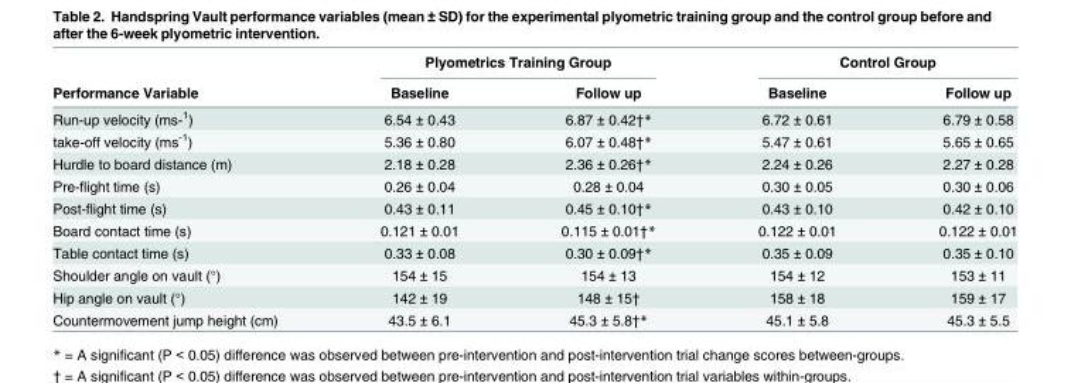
<table><thead><tr><td rowspan="2">Performance Variable</td><td colspan="2">Plyometrics Training Group</td><td colspan="2">Control Group</td></tr><tr><td>Baseline</td><td>Follow up</td><td>Baseline</td><td>Follow up</td></tr></thead><tbody><tr><td>Run-up velocity (ms-<sup>1</sup>)</td><td>6.54 ± 0.43</td><td>6.87 ± 0.42†*</td><td>6.72 ± 0.61</td><td>6.79 ± 0.58</td></tr><tr><td>take-off velocity (ms<sup>-1</sup>)</td><td>5.36 ± 0.80</td><td>6.07 ± 0.48†*</td><td>5.47 ± 0.61</td><td>5.65 ± 0.65</td></tr><tr><td>Hurdle to board distance (m)</td><td>2.18 ± 0.28</td><td>2.36 ± 0.26†*</td><td>2.24 ± 0.26</td><td>2.27 ± 0.28</td></tr><tr><td>Pre-flight time (s)</td><td>0.26 ± 0.04</td><td>0.28 ± 0.04</td><td>0.30 ± 0.05</td><td>0.30 ± 0.06</td></tr><tr><td>Post-flight time (s)</td><td>0.43 ± 0.11</td><td>0.45 ± 0.10†*</td><td>0.43 ± 0.10</td><td>0.42 ± 0.10</td></tr><tr><td>Board contact time (s)</td><td>0.121 ± 0.01</td><td>0.115 ± 0.01†*</td><td>0.122 ± 0.01</td><td>0.122 ± 0.01</td></tr><tr><td>Table contact time (s)</td><td>0.33 ± 0.08</td><td>0.30 ± 0.09†*</td><td>0.35 ± 0.09</td><td>0.35 ± 0.10</td></tr><tr><td>Shoulder angle on vault (°)</td><td>154 ± 15</td><td>154 ± 13</td><td>154 ± 12</td><td>153 ± 11</td></tr><tr><td>Hip angle on vault (°)</td><td>142 ± 19</td><td>148 ± 15†</td><td>158 ± 18</td><td>159 ± 17</td></tr><tr><td>Countermovement jump height (cm)</td><td>43.5 ± 6.1</td><td>45.3 ± 5.8†*</td><td>45.1 ± 5.8</td><td>45.3 ± 5.5</td></tr></tbody></table>